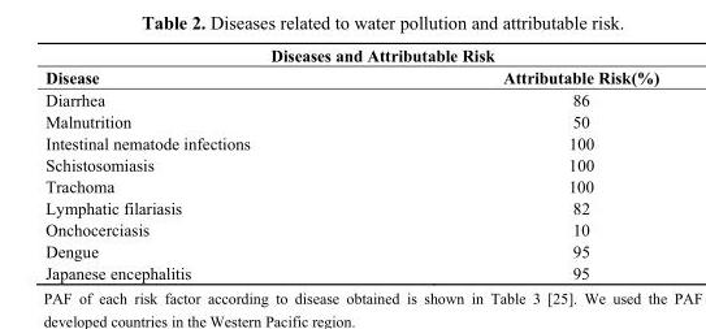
<table><thead><tr><td colspan="2">Diseases and Attributable Risk</td></tr><tr><td>Disease</td><td>Attributable Risk(%)</td></tr></thead><tbody><tr><td>Diarrhea</td><td>86</td></tr><tr><td>Malnutrition</td><td>50</td></tr><tr><td>Intestinal nematode infections</td><td>100</td></tr><tr><td>Schistosomiasis</td><td>100</td></tr><tr><td>Trachoma</td><td>100</td></tr><tr><td>Lymphatic filariasis</td><td>82</td></tr><tr><td>Onchocerciasis</td><td>10</td></tr><tr><td>Dengue</td><td>95</td></tr><tr><td>Japanese encephalitis</td><td>95</td></tr></tbody></table>